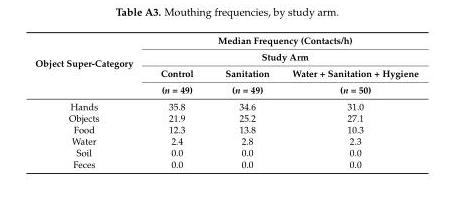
<table><thead><tr><td rowspan="4">Object Super-Category</td><td rowspan="2" colspan="3">Median Frequency (Contacts/h) Study Arm</td></tr><tr></tr><tr><td rowspan="2">Control (n = 49)</td><td rowspan="2">Sanitation (n = 49)</td><td rowspan="2">Water + Sanitation + Hygiene (n = 50)</td></tr><tr></tr></thead><tbody><tr><td>Hands</td><td>35.8</td><td>34.6</td><td>31.0</td></tr><tr><td>Objects</td><td>21.9</td><td>25.2</td><td>27.1</td></tr><tr><td>Food</td><td>12.3</td><td>13.8</td><td>10.3</td></tr><tr><td>Water</td><td>2.4</td><td>2.8</td><td>2.3</td></tr><tr><td>Soil</td><td>0.0</td><td>0.0</td><td>0.0</td></tr><tr><td>Feces</td><td>0.0</td><td>0.0</td><td>0.0</td></tr></tbody></table>